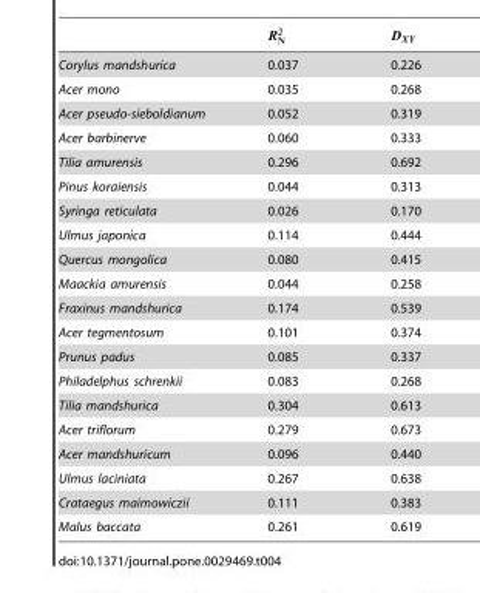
<table><tbody><tr><td>Corylus mandshurica</td><td>0.037</td><td>0.226</td></tr><tr><td>Acer mono</td><td>0.035</td><td>0.268</td></tr><tr><td>Acer pseudo-sieboldianum</td><td>0.052</td><td>0.319</td></tr><tr><td>Acer barbinerve</td><td>0.060</td><td>0.333</td></tr><tr><td>Tilia amurensis</td><td>0.296</td><td>0.692</td></tr><tr><td>Pinus koraiensis</td><td>0.044</td><td>0.313</td></tr><tr><td>Syringa reticulata</td><td>0.026</td><td>0.170</td></tr><tr><td>Ulmus japonica</td><td>0.114</td><td>0.444</td></tr><tr><td>Quercus mongolica</td><td>0.080</td><td>0.415</td></tr><tr><td>Maackia amurensis</td><td>0.044</td><td>0.258</td></tr><tr><td>Fraxinus mandshurica</td><td>0.174</td><td>0.539</td></tr><tr><td>Acer tegmentosum</td><td>0.101</td><td>0.374</td></tr><tr><td>Prunus padus</td><td>0.085</td><td>0.337</td></tr><tr><td>Philadelphus schrenkii</td><td>0.083</td><td>0.268</td></tr><tr><td>Tilia mandshurica</td><td>0.304</td><td>0.613</td></tr><tr><td>Acer triflorum</td><td>0.279</td><td>0.673</td></tr><tr><td>Acer mandshuricum</td><td>0.096</td><td>0.440</td></tr><tr><td>Ulmus laciniata</td><td>0.267</td><td>0.638</td></tr><tr><td>Crataegus maimowiczii</td><td>0.111</td><td>0.383</td></tr><tr><td>Malus baccata</td><td>0.261</td><td>0.619</td></tr></tbody></table>